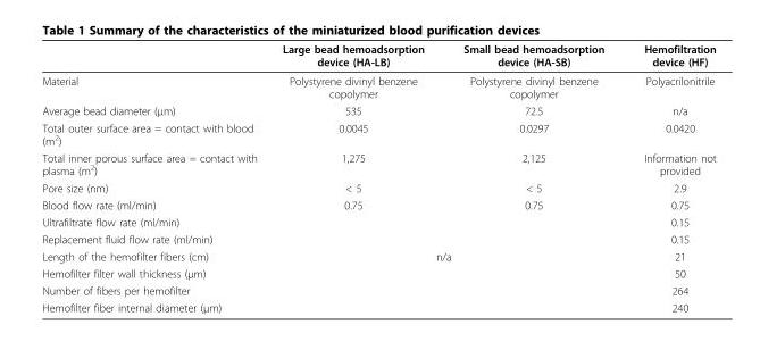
<table><thead><tr><td></td><td>Large bead hemoadsorption device (HA-LB)</td><td>Small bead hemoadsorption device (HA-SB)</td><td>Hemofiltration device (HF)</td></tr></thead><tbody><tr><td>Material</td><td>Polystyrene divinyl benzene copolymer</td><td>Polystyrene divinyl benzene copolymer</td><td>Polyacrilonitrile</td></tr><tr><td>Average bead diameter (µm)</td><td>535</td><td>72.5</td><td>n/a</td></tr><tr><td>Total outer surface area = contact with blood (m<sup>2</sup>)</td><td>0.0045</td><td>0.0297</td><td>0.0420</td></tr><tr><td>Total inner porous surface area = contact with plasma (m<sup>2</sup>)</td><td>1,275</td><td>2,125</td><td>Information not provided</td></tr><tr><td>Pore size (nm)</td><td>&lt; 5</td><td>&lt; 5</td><td>2.9</td></tr><tr><td>Blood flow rate (ml/min)</td><td>0.75</td><td>0.75</td><td>0.75</td></tr><tr><td>Ultrafiltrate flow rate (ml/min)</td><td></td><td></td><td>0.15</td></tr><tr><td>Replacement fluid flow rate (ml/min)</td><td></td><td></td><td>0.15</td></tr><tr><td>Length of the hemofilter fibers (cm)</td><td colspan="2">n/a</td><td>21</td></tr><tr><td>Hemofilter filter wall thickness (µm)</td><td></td><td></td><td>50</td></tr><tr><td>Number of fibers per hemofilter</td><td></td><td></td><td>264</td></tr><tr><td>Hemofilter fiber internal diameter (µm)</td><td></td><td></td><td>240</td></tr></tbody></table>